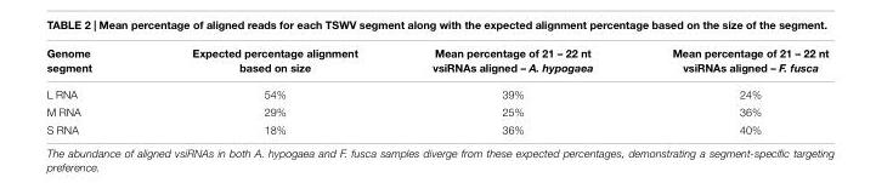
<table><thead><tr><td>Genome segment</td><td>Expected percentage alignment based on size</td><td>Mean percentage of 21 – 22 nt vsiRNAs aligned – A. hypogaea</td><td>Mean percentage of 21 – 22 nt vsiRNAs aligned – F. fusca</td></tr></thead><tbody><tr><td>L RNA</td><td>54%</td><td>39%</td><td>24%</td></tr><tr><td>M RNA</td><td>29%</td><td>25%</td><td>36%</td></tr><tr><td>S RNA</td><td>18%</td><td>36%</td><td>40%</td></tr></tbody></table>